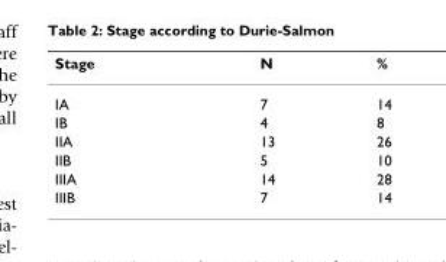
<table><thead><tr><td>Stage</td><td>N</td><td>%</td></tr></thead><tbody><tr><td>IA</td><td>7</td><td>14</td></tr><tr><td>IB</td><td>4</td><td>8</td></tr><tr><td>IIA</td><td>13</td><td>26</td></tr><tr><td>IIB</td><td>5</td><td>10</td></tr><tr><td>IIIA</td><td>14</td><td>28</td></tr><tr><td>IIIB</td><td>7</td><td>14</td></tr></tbody></table>